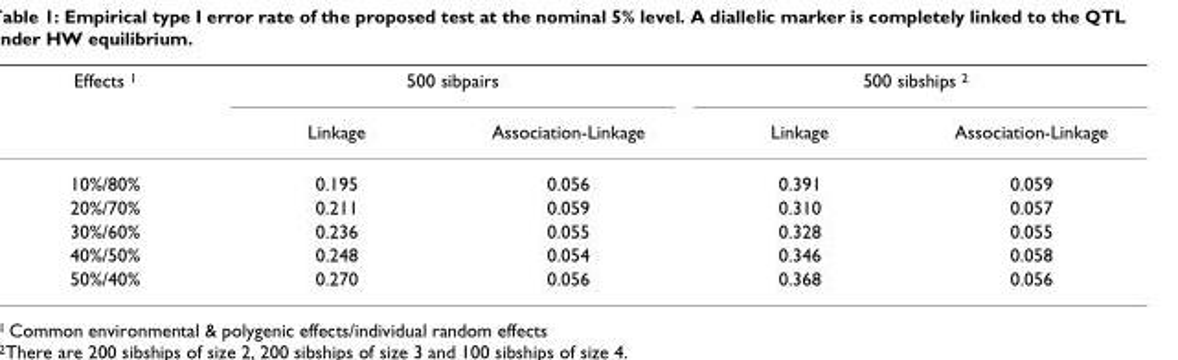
<table><thead><tr><td rowspan="2">Effects <sup>1</sup></td><td colspan="2">500 sibpairs</td><td colspan="2">500 sibships <sup>2</sup></td></tr><tr><td>Linkage</td><td>Association-Linkage</td><td>Linkage</td><td>Association-Linkage</td></tr></thead><tbody><tr><td>10%/80%</td><td>0.195</td><td>0.056</td><td>0.391</td><td>0.059</td></tr><tr><td>20%/70%</td><td>0.211</td><td>0.059</td><td>0.310</td><td>0.057</td></tr><tr><td>30%/60%</td><td>0.236</td><td>0.055</td><td>0.328</td><td>0.055</td></tr><tr><td>40%/50%</td><td>0.248</td><td>0.054</td><td>0.346</td><td>0.058</td></tr><tr><td>50%/40%</td><td>0.270</td><td>0.056</td><td>0.368</td><td>0.056</td></tr></tbody></table>